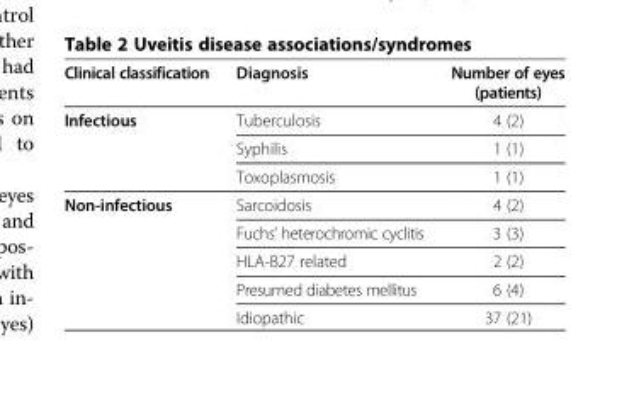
<table><thead><tr><td>Clinical classification</td><td>Diagnosis</td><td>Number of eyes (patients)</td></tr></thead><tbody><tr><td rowspan="3">Infectious</td><td>Tuberculosis</td><td>4 (2)</td></tr><tr><td>Syphilis</td><td>1 (1)</td></tr><tr><td>Toxoplasmosis</td><td>1 (1)</td></tr><tr><td rowspan="5">Non-infectious</td><td>Sarcoidosis</td><td>4 (2)</td></tr><tr><td>Fuchs’ heterochromic cyclitis</td><td>3 (3)</td></tr><tr><td>HLA-B27 related</td><td>2 (2)</td></tr><tr><td>Presumed diabetes mellitus</td><td>6 (4)</td></tr><tr><td>Idiopathic</td><td>37 (21)</td></tr></tbody></table>